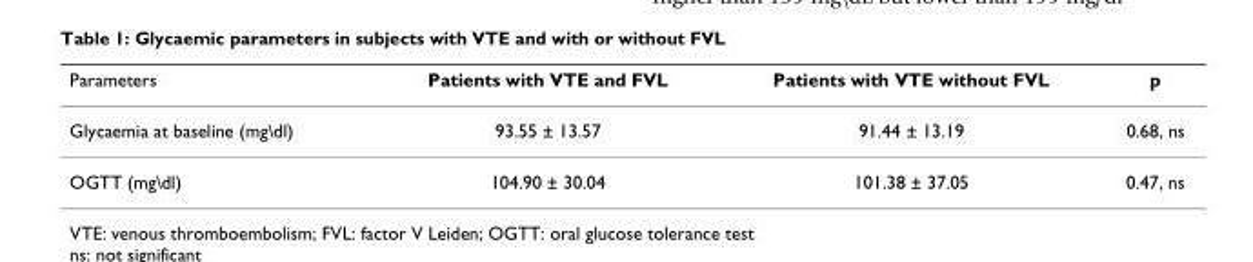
<table><thead><tr><td>Parameters</td><td>Patients with VTE and FVL</td><td>Patients with VTE without FVL</td><td>p</td></tr></thead><tbody><tr><td>Glycaemia at baseline (mg\dl)</td><td>93.55 ± 13.57</td><td>91.44 ± 13.19</td><td>0.68, ns</td></tr><tr><td>OGTT (mg\dl)</td><td>104.90 ± 30.04</td><td>101.38 ± 37.05</td><td>0.47, ns</td></tr></tbody></table>